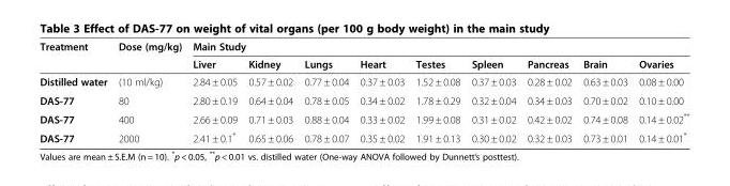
<table><thead><tr><td rowspan="2">Treatment</td><td rowspan="2">Dose (mg/kg)</td><td colspan="9">Main Study</td></tr><tr><td>Liver</td><td>Kidney</td><td>Lungs</td><td>Heart</td><td>Testes</td><td>Spleen</td><td>Pancreas</td><td>Brain</td><td>Ovaries</td></tr></thead><tbody><tr><td>Distilled water</td><td>(10 ml/kg)</td><td>2.84 ± 0.05</td><td>0.57 ± 0.02</td><td>0.77 ± 0.04</td><td>0.37 ± 0.03</td><td>1.52 ± 0.08</td><td>0.37 ± 0.03</td><td>0.28 ± 0.02</td><td>0.63 ± 0.03</td><td>0.08 ± 0.00</td></tr><tr><td>DAS-77</td><td>80</td><td>2.80 ± 0.19</td><td>0.64 ± 0.04</td><td>0.78 ± 0.05</td><td>0.34 ± 0.02</td><td>1.78 ± 0.29</td><td>0.32 ± 0.04</td><td>0.34 ± 0.03</td><td>0.70 ± 0.02</td><td>0.10 ± 0.00</td></tr><tr><td>DAS-77</td><td>400</td><td>2.66 ± 0.09</td><td>0.71 ± 0.03</td><td>0.88 ± 0.04</td><td>0.33 ± 0.02</td><td>1.99 ± 0.08</td><td>0.31 ± 0.02</td><td>0.42 ± 0.02</td><td>0.74 ± 0.08</td><td>0.14 ± 0.02**</td></tr><tr><td>DAS-77</td><td>2000</td><td>2.41 ± 0.1*</td><td>0.65 ± 0.06</td><td>0.78 ± 0.07</td><td>0.35 ± 0.02</td><td>1.91 ± 0.13</td><td>0.30 ± 0.02</td><td>0.32 ± 0.03</td><td>0.73 ± 0.01</td><td>0.14 ± 0.01*</td></tr></tbody></table>